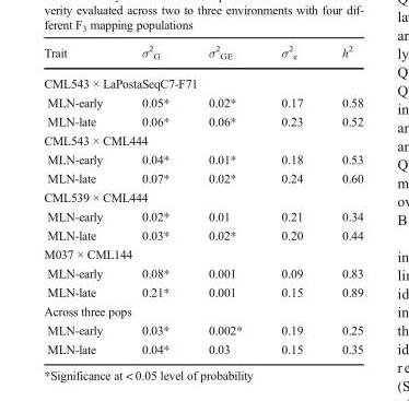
<table><thead><tr><td>Trait</td><td>σ<sup>2</sup> <sub>G</sub></td><td>σ<sup>2</sup> <sub>GE</sub></td><td>σ<sup>2</sup> <sub>e</sub></td><td>h<sup>2</sup></td></tr></thead><tbody><tr><td colspan="5">CML543 × LaPostaSeqC7-F71</td></tr><tr><td>MLN-early</td><td>0.05*</td><td>0.02*</td><td>0.17</td><td>0.58</td></tr><tr><td>MLN-late</td><td>0.06*</td><td>0.06*</td><td>0.23</td><td>0.52</td></tr><tr><td colspan="5">CML543 × CML444</td></tr><tr><td>MLN-early</td><td>0.04*</td><td>0.01*</td><td>0.18</td><td>0.53</td></tr><tr><td>MLN-late</td><td>0.07*</td><td>0.02*</td><td>0.24</td><td>0.60</td></tr><tr><td colspan="5">CML539 × CML444</td></tr><tr><td>MLN-early</td><td>0.02*</td><td>0.01</td><td>0.21</td><td>0.34</td></tr><tr><td>MLN-late</td><td>0.03*</td><td>0.02*</td><td>0.20</td><td>0.44</td></tr><tr><td colspan="5">M037 × CML144</td></tr><tr><td>MLN-early</td><td>0.08*</td><td>0.001</td><td>0.09</td><td>0.83</td></tr><tr><td>MLN-late</td><td>0.21*</td><td>0.001</td><td>0.15</td><td>0.89</td></tr><tr><td colspan="5">Across three pops</td></tr><tr><td>MLN-early</td><td>0.03*</td><td>0.002*</td><td>0.19</td><td>0.25</td></tr><tr><td>MLN-late</td><td>0.04*</td><td>0.03</td><td>0.15</td><td>0.35</td></tr></tbody></table>